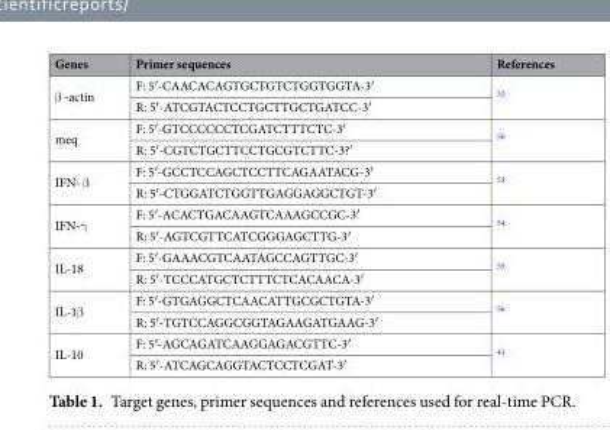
<table><thead><tr><td>Genes</td><td>Primer sequences</td><td>References</td></tr></thead><tbody><tr><td rowspan="2">β -actin</td><td>F: 5′-CAACACAGTGCTGTCTGGTGGTA-3′</td><td rowspan="2"><sup>52</sup></td></tr><tr><td>R: 5′-ATCGTACTCCTGCTTGCTGATCC-3′</td></tr><tr><td rowspan="2">meq</td><td>F: 5′-GTCCCCCCTCGATCTTTCTC-3′</td><td rowspan="2"><sup>50</sup></td></tr><tr><td>R: 5′-CGTCTGCTTCCTGCGTCTTC-3?’</td></tr><tr><td rowspan="2">IFN- β</td><td>F: 5′-GCCTCCAGCTCCTTCAGAATACG-3′</td><td rowspan="2"><sup>53</sup></td></tr><tr><td>R: 5′-CTGGATCTGGTTGAGGAGGCTGT-3′</td></tr><tr><td rowspan="2">IFN-γ</td><td>F: 5′-ACACTGACAAGTCAAAGCCGC-3′</td><td rowspan="2"><sup>54</sup></td></tr><tr><td>R: 5′-AGTCGTTCATCGGGAGCTTG-3′</td></tr><tr><td rowspan="2">IL-18</td><td>F: 5′-GAAACGTCAATAGCCAGTTGC-3′</td><td rowspan="2"><sup>55</sup></td></tr><tr><td>R: 5′-TCCCATGCTCTTTCTCACAACA-3′</td></tr><tr><td rowspan="2">IL-1β</td><td>F: 5′-GTGAGGCTCAACATTGCGCTGTA-3′</td><td rowspan="2"><sup>56</sup></td></tr><tr><td>R: 5′-TGTCCAGGCGGTAGAAGATGAAG-3′</td></tr><tr><td rowspan="2">IL-10</td><td>F: 5′-AGCAGATCAAGGAGACGTTC-3′</td><td rowspan="2"><sup>41</sup></td></tr><tr><td>R: 5′-ATCAGCAGGTACTCCTCGAT-3′</td></tr></tbody></table>